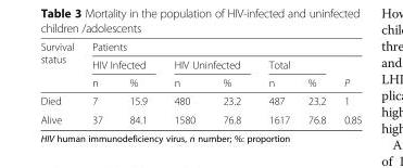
<table><thead><tr><td rowspan="3">Survival status</td><td colspan="7">Patients</td></tr><tr><td colspan="2">HIV Infected</td><td colspan="2">HIV Uninfected</td><td colspan="2">Total</td><td rowspan="2">P</td></tr><tr><td>n</td><td>%</td><td>n</td><td>%</td><td>n</td><td>%</td></tr></thead><tbody><tr><td>Died</td><td>7</td><td>15.9</td><td>480</td><td>23.2</td><td>487</td><td>23.2</td><td>1</td></tr><tr><td>Alive</td><td>37</td><td>84.1</td><td>1580</td><td>76.8</td><td>1617</td><td>76.8</td><td>0.85</td></tr></tbody></table>